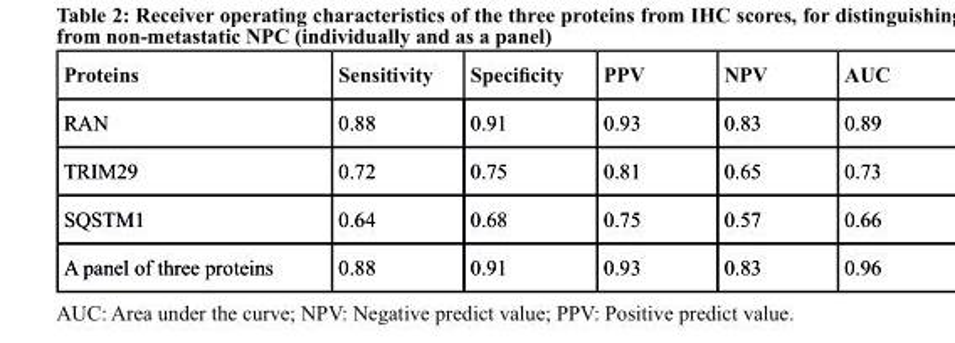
<table><thead><tr><td>Proteins</td><td>Sensitivity</td><td>Specificity</td><td>PPV</td><td>nPV</td><td>Auc</td></tr></thead><tbody><tr><td>RAN</td><td>0.88</td><td>0.91</td><td>0.93</td><td>0.83</td><td>0.89</td></tr><tr><td>TRIM29</td><td>0.72</td><td>0.75</td><td>0.81</td><td>0.65</td><td>0.73</td></tr><tr><td>SQSTM1</td><td>0.64</td><td>0.68</td><td>0.75</td><td>0.57</td><td>0.66</td></tr><tr><td>A panel of three proteins</td><td>0.88</td><td>0.91</td><td>0.93</td><td>0.83</td><td>0.96</td></tr></tbody></table>